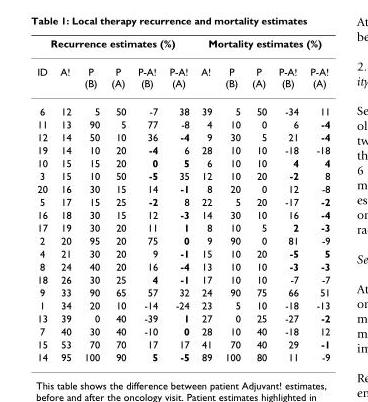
<table><thead><tr><td colspan="6">Recurrence estimates (%)</td><td colspan="5">Mortality estimates (%)</td></tr><tr><td>ID</td><td>A!</td><td>P (B)</td><td>P (A)</td><td>P-A! (B)</td><td>P-A! (A)</td><td>A!</td><td>P (B)</td><td>P (A)</td><td>P-A! (B)</td><td>P-A! (A)</td></tr></thead><tbody><tr><td>6</td><td>12</td><td>5</td><td>50</td><td>-7</td><td>38</td><td>39</td><td>5</td><td>50</td><td>-34</td><td>11</td></tr><tr><td>11</td><td>13</td><td>90</td><td>5</td><td>77</td><td>-8</td><td>4</td><td>10</td><td>0</td><td>6</td><td>-4</td></tr><tr><td>12</td><td>14</td><td>50</td><td>10</td><td>36</td><td>-4</td><td>9</td><td>30</td><td>5</td><td>21</td><td>-4</td></tr><tr><td>19</td><td>14</td><td>10</td><td>20</td><td>-4</td><td>6</td><td>28</td><td>10</td><td>10</td><td>-18</td><td>-18</td></tr><tr><td>10</td><td>15</td><td>15</td><td>20</td><td>0</td><td>5</td><td>6</td><td>10</td><td>10</td><td>4</td><td>4</td></tr><tr><td>3</td><td>15</td><td>10</td><td>50</td><td>-5</td><td>35</td><td>12</td><td>10</td><td>20</td><td>-2</td><td>8</td></tr><tr><td>20</td><td>16</td><td>30</td><td>15</td><td>14</td><td>-1</td><td>8</td><td>20</td><td>0</td><td>12</td><td>-8</td></tr><tr><td>5</td><td>17</td><td>15</td><td>25</td><td>-2</td><td>8</td><td>22</td><td>5</td><td>20</td><td>-17</td><td>-2</td></tr><tr><td>16</td><td>18</td><td>30</td><td>15</td><td>12</td><td>-3</td><td>14</td><td>30</td><td>10</td><td>16</td><td>-4</td></tr><tr><td>17</td><td>19</td><td>30</td><td>20</td><td>11</td><td>1</td><td>8</td><td>10</td><td>5</td><td>2</td><td>-3</td></tr><tr><td>2</td><td>20</td><td>95</td><td>20</td><td>75</td><td>0</td><td>9</td><td>90</td><td>0</td><td>81</td><td>-9</td></tr><tr><td>4</td><td>21</td><td>30</td><td>20</td><td>9</td><td>-1</td><td>15</td><td>10</td><td>20</td><td>-5</td><td>5</td></tr><tr><td>8</td><td>24</td><td>40</td><td>20</td><td>16</td><td>-4</td><td>13</td><td>10</td><td>10</td><td>-3</td><td>-3</td></tr><tr><td>18</td><td>26</td><td>30</td><td>25</td><td>4</td><td>-1</td><td>17</td><td>10</td><td>10</td><td>-7</td><td>-7</td></tr><tr><td>9</td><td>33</td><td>90</td><td>65</td><td>57</td><td>32</td><td>24</td><td>90</td><td>75</td><td>66</td><td>51</td></tr><tr><td>1</td><td>34</td><td>20</td><td>10</td><td>-14</td><td>-24</td><td>23</td><td>5</td><td>10</td><td>-18</td><td>-13</td></tr><tr><td>13</td><td>39</td><td>0</td><td>40</td><td>-39</td><td>1</td><td>27</td><td>0</td><td>25</td><td>-27</td><td>-2</td></tr><tr><td>7</td><td>40</td><td>30</td><td>40</td><td>-10</td><td>0</td><td>28</td><td>10</td><td>40</td><td>-18</td><td>12</td></tr><tr><td>15</td><td>53</td><td>70</td><td>70</td><td>17</td><td>17</td><td>41</td><td>70</td><td>40</td><td>29</td><td>-1</td></tr><tr><td>14</td><td>95</td><td>100</td><td>90</td><td>5</td><td>-5</td><td>89</td><td>100</td><td>80</td><td>11</td><td>-9</td></tr></tbody></table>